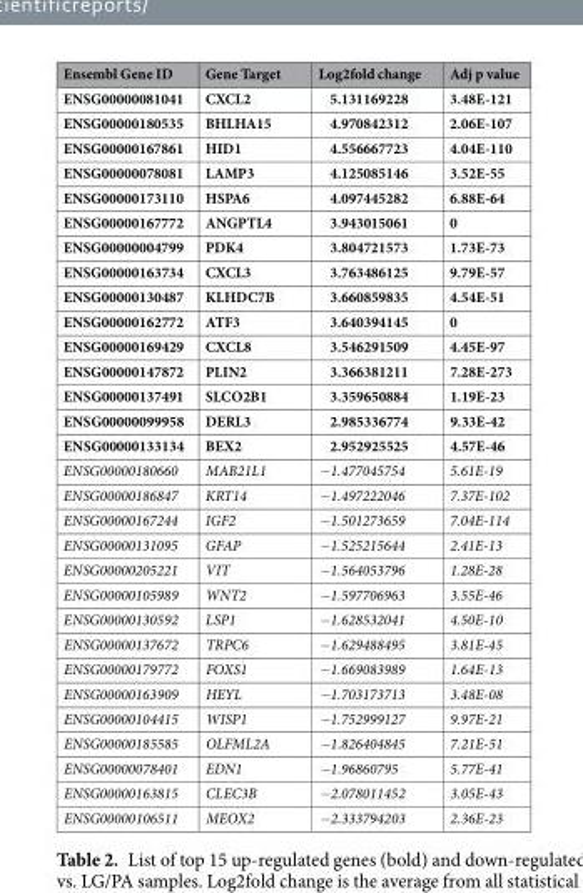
<table><thead><tr><td>Ensembl Gene ID</td><td>Gene Target</td><td>Log2fold change</td><td>Adj p value</td></tr></thead><tbody><tr><td>ENSG00000081041</td><td>CXCL2</td><td>5.131169228</td><td>3.48E-121</td></tr><tr><td>ENSG00000180535</td><td>BHLHA15</td><td>4.970842312</td><td>2.06E-107</td></tr><tr><td>ENSG00000167861</td><td>HID1</td><td>4.556667723</td><td>4.04E-110</td></tr><tr><td>ENSG00000078081</td><td>LAMP3</td><td>4.125085146</td><td>3.52E-55</td></tr><tr><td>ENSG00000173110</td><td>HSPA6</td><td>4.097445282</td><td>6.88E-64</td></tr><tr><td>ENSG00000167772</td><td>ANGPTL4</td><td>3.943015061</td><td>0</td></tr><tr><td>ENSG00000004799</td><td>PDK4</td><td>3.804721573</td><td>1.73E-73</td></tr><tr><td>ENSG00000163734</td><td>CXCL3</td><td>3.763486125</td><td>9.79E-57</td></tr><tr><td>ENSG00000130487</td><td>KLHDC7B</td><td>3.660859835</td><td>4.54E-51</td></tr><tr><td>ENSG00000162772</td><td>ATF3</td><td>3.640394145</td><td>0</td></tr><tr><td>ENSG00000169429</td><td>CXCL8</td><td>3.546291509</td><td>4.45E-97</td></tr><tr><td>ENSG00000147872</td><td>PLIN2</td><td>3.366381211</td><td>7.28E-273</td></tr><tr><td>ENSG00000137491</td><td>SLCO2B1</td><td>3.359650884</td><td>1.19E-23</td></tr><tr><td>ENSG00000099958</td><td>DERL3</td><td>2.985336774</td><td>9.33E-42</td></tr><tr><td>ENSG00000133134</td><td>BEX2</td><td>2.952925525</td><td>4.57E-46</td></tr><tr><td>ENSG00000180660</td><td>MAB21L1</td><td>−1.477045754</td><td>5.61E-19</td></tr><tr><td>ENSG00000186847</td><td>KRT14</td><td>−1.497222046</td><td>7.37E-102</td></tr><tr><td>ENSG00000167244</td><td>IGF2</td><td>−1.501273659</td><td>7.04E-114</td></tr><tr><td>ENSG00000131095</td><td>GFAP</td><td>−1.525215644</td><td>2.41E-13</td></tr><tr><td>ENSG00000205221</td><td>VIT</td><td>−1.564053796</td><td>1.28E-28</td></tr><tr><td>ENSG00000105989</td><td>WNT2</td><td>−1.597706963</td><td>3.55E-46</td></tr><tr><td>ENSG00000130592</td><td>LSP1</td><td>−1.628532041</td><td>4.50E-10</td></tr><tr><td>ENSG00000137672</td><td>TRPC6</td><td>−1.629488495</td><td>3.81E-45</td></tr><tr><td>ENSG00000179772</td><td>FOXS1</td><td>−1.669083989</td><td>1.64E-13</td></tr><tr><td>ENSG00000163909</td><td>HEYL</td><td>−1.703173713</td><td>3.48E-08</td></tr><tr><td>ENSG00000104415</td><td>WISP1</td><td>−1.752999127</td><td>9.97E-21</td></tr><tr><td>ENSG00000185585</td><td>OLFML2A</td><td>−1.826404845</td><td>7.21E-51</td></tr><tr><td>ENSG00000078401</td><td>EDN1</td><td>−1.96860795</td><td>5.77E-41</td></tr><tr><td>ENSG00000163815</td><td>CLEC3B</td><td>−2.078011452</td><td>3.05E-43</td></tr><tr><td>ENSG00000106511</td><td>MEOX2</td><td>−2.333794203</td><td>2.36E-23</td></tr></tbody></table>